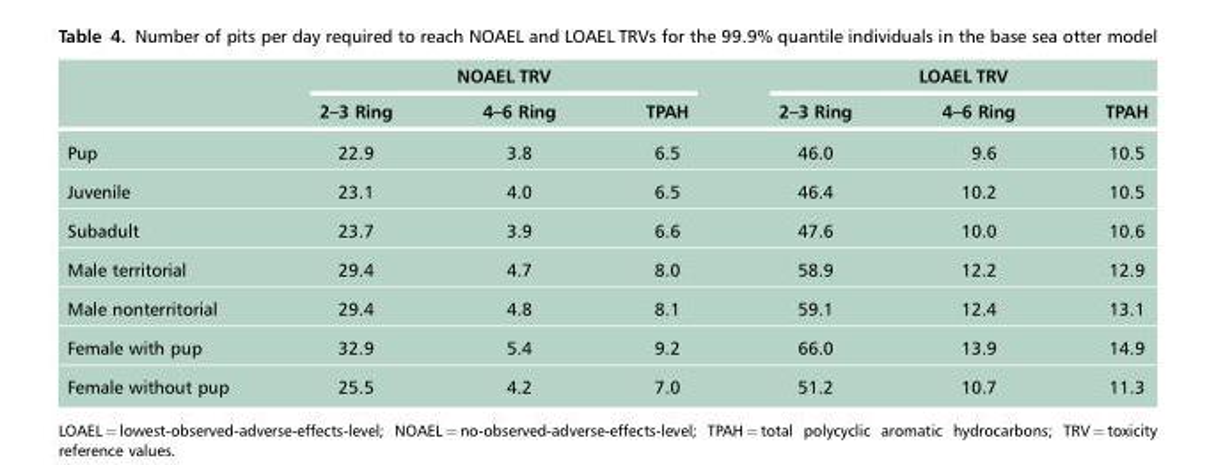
<table><thead><tr><td rowspan="2"></td><td colspan="3">NOAEL TRV</td><td colspan="3">LOAEL TRV</td></tr><tr><td>2–3 Ring</td><td>4–6 Ring</td><td>TPAH</td><td>2–3 Ring</td><td>4–6 Ring</td><td>TPAH</td></tr></thead><tbody><tr><td>Pup</td><td>22.9</td><td>3.8</td><td>6.5</td><td>46.0</td><td>9.6</td><td>10.5</td></tr><tr><td>Juvenile</td><td>23.1</td><td>4.0</td><td>6.5</td><td>46.4</td><td>10.2</td><td>10.5</td></tr><tr><td>Subadult</td><td>23.7</td><td>3.9</td><td>6.6</td><td>47.6</td><td>10.0</td><td>10.6</td></tr><tr><td>Male territorial</td><td>29.4</td><td>4.7</td><td>8.0</td><td>58.9</td><td>12.2</td><td>12.9</td></tr><tr><td>Male nonterritorial</td><td>29.4</td><td>4.8</td><td>8.1</td><td>59.1</td><td>12.4</td><td>13.1</td></tr><tr><td>Female with pup</td><td>32.9</td><td>5.4</td><td>9.2</td><td>66.0</td><td>13.9</td><td>14.9</td></tr><tr><td>Female without pup</td><td>25.5</td><td>4.2</td><td>7.0</td><td>51.2</td><td>10.7</td><td>11.3</td></tr></tbody></table>